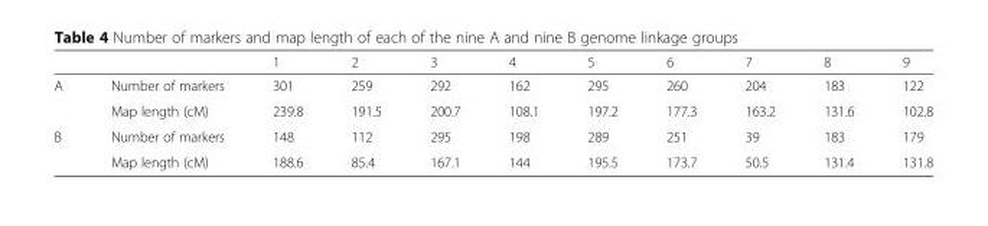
<table><thead><tr><td></td><td></td><td>1</td><td>2</td><td>3</td><td>4</td><td>5</td><td>6</td><td>7</td><td>8</td><td>9</td></tr></thead><tbody><tr><td rowspan="2">A</td><td>Number of markers</td><td>301</td><td>259</td><td>292</td><td>162</td><td>295</td><td>260</td><td>204</td><td>183</td><td>122</td></tr><tr><td>Map length (cM)</td><td>239.8</td><td>191.5</td><td>200.7</td><td>108.1</td><td>197.2</td><td>177.3</td><td>163.2</td><td>131.6</td><td>102.8</td></tr><tr><td rowspan="2">B</td><td>Number of markers</td><td>148</td><td>112</td><td>295</td><td>198</td><td>289</td><td>251</td><td>39</td><td>183</td><td>179</td></tr><tr><td>Map length (cM)</td><td>188.6</td><td>85.4</td><td>167.1</td><td>144</td><td>195.5</td><td>173.7</td><td>50.5</td><td>131.4</td><td>131.8</td></tr></tbody></table>